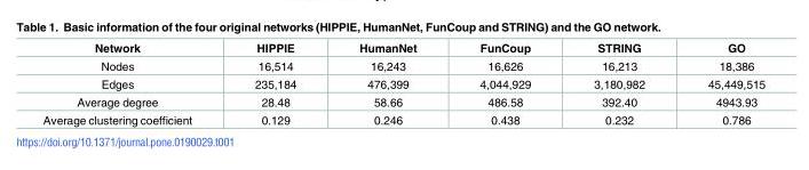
<table><thead><tr><td>Network</td><td>HIPPIE</td><td>HumanNet</td><td>FunCoup</td><td>STRING</td><td>GO</td></tr></thead><tbody><tr><td>Nodes</td><td>16,514</td><td>16,243</td><td>16,626</td><td>16,213</td><td>18,386</td></tr><tr><td>Edges</td><td>235,184</td><td>476,399</td><td>4,044,929</td><td>3,180,982</td><td>45,449,515</td></tr><tr><td>Average degree</td><td>28.48</td><td>58.66</td><td>486.58</td><td>392.40</td><td>4943.93</td></tr><tr><td>Average clustering coefficient</td><td>0.129</td><td>0.246</td><td>0.438</td><td>0.232</td><td>0.786</td></tr></tbody></table>